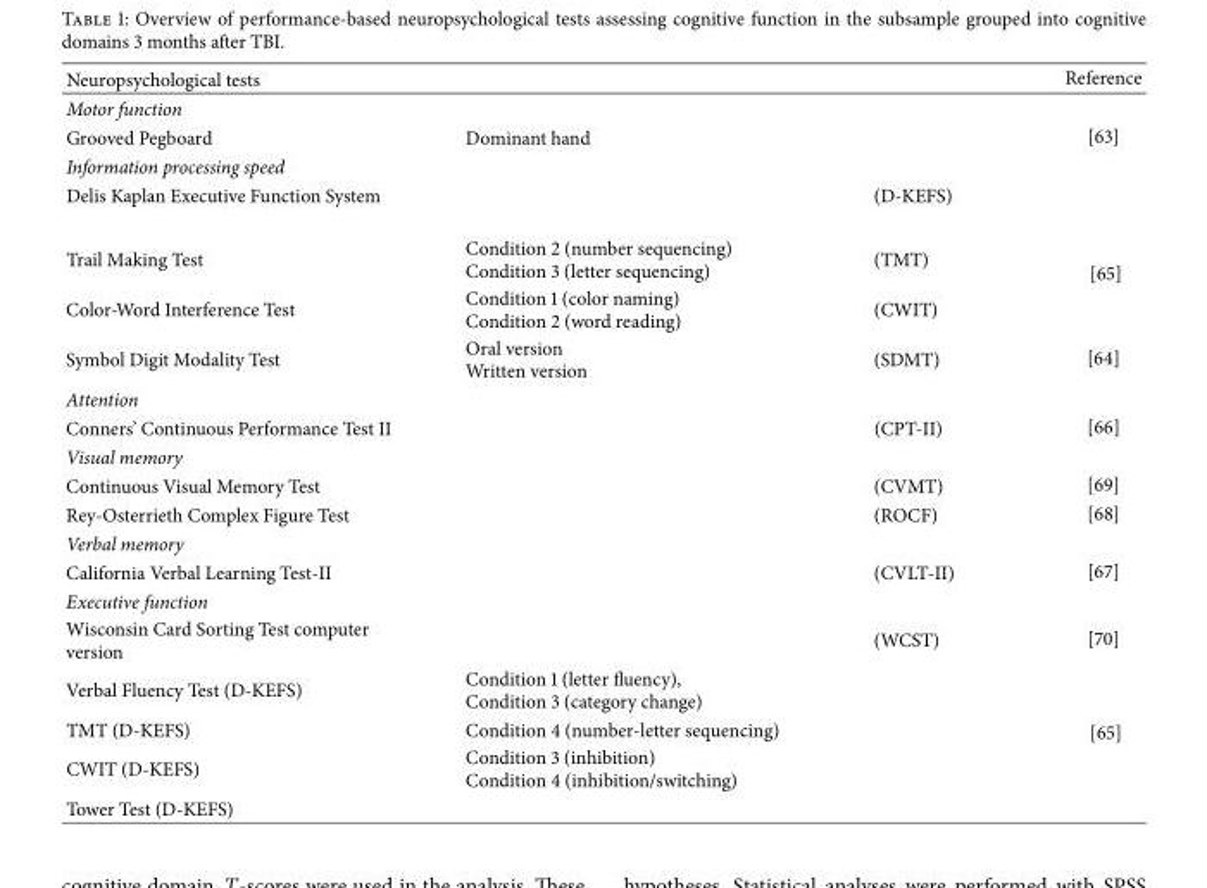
<table><thead><tr><td>Neuropsychological tests</td><td></td><td></td><td>Reference</td></tr></thead><tbody><tr><td colspan="4">Motor function</td></tr><tr><td>Grooved Pegboard</td><td>Dominant hand</td><td></td><td>[63]</td></tr><tr><td colspan="4">Information processing speed</td></tr><tr><td>Delis Kaplan Executive Function System</td><td></td><td>(D-KEFS)</td><td rowspan="3">[65]</td></tr><tr><td>Trail Making Test</td><td>Condition 2 (number sequencing) Condition 3 (letter sequencing)</td><td>(TMT)</td></tr><tr><td>Color-Word Interference Test</td><td>Condition 1 (color naming) Condition 2 (word reading)</td><td>(CWIT)</td></tr><tr><td>Symbol Digit Modality Test</td><td>Oral version Written version</td><td>(SDMT)</td><td>[64]</td></tr><tr><td colspan="4">Attention</td></tr><tr><td>Conners’ Continuous Performance Test II</td><td></td><td>(CPT-II)</td><td>[66]</td></tr><tr><td colspan="4">Visual memory</td></tr><tr><td>Continuous Visual Memory Test</td><td></td><td>(CVMT)</td><td>[69]</td></tr><tr><td>Rey-Osterrieth Complex Figure Test</td><td></td><td>(ROCF)</td><td>[68]</td></tr><tr><td colspan="4">Verbal memory</td></tr><tr><td>California Verbal Learning Test-II</td><td></td><td>(CVLT-II)</td><td>[67]</td></tr><tr><td colspan="4">Executive function</td></tr><tr><td>Wisconsin Card Sorting Test computer version</td><td></td><td>(WCST)</td><td>[70]</td></tr><tr><td>Verbal Fluency Test (D-KEFS)</td><td>Condition 1 (letter fluency), Condition 3 (category change)</td><td></td><td rowspan="4">[65]</td></tr><tr><td>TMT (D-KEFS)</td><td>Condition 4 (number-letter sequencing)</td><td></td></tr><tr><td>CWIT (D-KEFS)</td><td>Condition 3 (inhibition) Condition 4 (inhibition/switching)</td><td></td></tr><tr><td>Tower Test (D-KEFS)</td><td></td><td></td></tr></tbody></table>